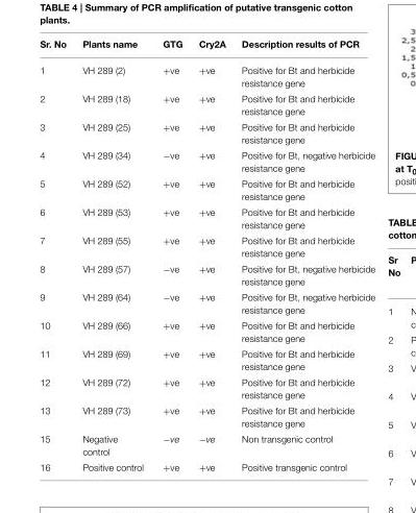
<table><thead><tr><td>Sr. No</td><td>Plants name</td><td>GTG</td><td>Cry2A</td><td>Description results of PCR</td></tr></thead><tbody><tr><td>1</td><td>VH 289 (2)</td><td>+ve</td><td>+ve</td><td>Positive for Bt and herbicide resistance gene</td></tr><tr><td>2</td><td>VH 289 (18)</td><td>+ve</td><td>+ve</td><td>Positive for Bt and herbicide resistance gene</td></tr><tr><td>3</td><td>VH 289 (25)</td><td>+ve</td><td>+ve</td><td>Positive for Bt and herbicide resistance gene</td></tr><tr><td>4</td><td>VH 289 (34)</td><td>−ve</td><td>+ve</td><td>Positive for Bt, negative herbicide resistance gene</td></tr><tr><td>5</td><td>VH 289 (52)</td><td>+ve</td><td>+ve</td><td>Positive for Bt and herbicide resistance gene</td></tr><tr><td>6</td><td>VH 289 (53)</td><td>+ve</td><td>+ve</td><td>Positive for Bt and herbicide resistance gene</td></tr><tr><td>7</td><td>VH 289 (55)</td><td>+ve</td><td>+ve</td><td>Positive for Bt and herbicide resistance gene</td></tr><tr><td>8</td><td>VH 289 (57)</td><td>−ve</td><td>+ve</td><td>Positive for Bt, negative herbicide resistance gene</td></tr><tr><td>9</td><td>VH 289 (64)</td><td>−ve</td><td>+ve</td><td>Positive for Bt, negative herbicide resistance gene</td></tr><tr><td>10</td><td>VH 289 (66)</td><td>+ve</td><td>+ve</td><td>Positive for Bt and herbicide resistance gene</td></tr><tr><td>11</td><td>VH 289 (69)</td><td>+ve</td><td>+ve</td><td>Positive for Bt and herbicide resistance gene</td></tr><tr><td>12</td><td>VH 289 (72)</td><td>+ve</td><td>+ve</td><td>Positive for Bt and herbicide resistance gene</td></tr><tr><td>13</td><td>VH 289 (73)</td><td>+ve</td><td>+ve</td><td>Positive for Bt and herbicide resistance gene</td></tr><tr><td>15</td><td>Negative control</td><td>−ve</td><td>−ve</td><td>Non transgenic control</td></tr><tr><td>16</td><td>Positive control</td><td>+ve</td><td>+ve</td><td>Positive transgenic control</td></tr></tbody></table>